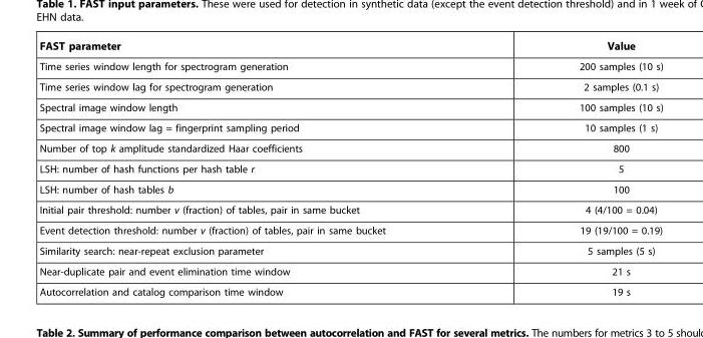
<table><thead><tr><td>FAST parameter</td><td>Value</td></tr></thead><tbody><tr><td>Time series window length for spectrogram generation</td><td>200 samples (10 s)</td></tr><tr><td>Time series window lag for spectrogram generation</td><td>2 samples (0.1 s)</td></tr><tr><td>Spectral image window length</td><td>100 samples (10 s)</td></tr><tr><td>Spectral image window lag = fingerprint sampling period</td><td>10 samples (1 s)</td></tr><tr><td>Number of top k amplitude standardized Haar coefficients</td><td>800</td></tr><tr><td>LSH: number of hash functions per hash table r</td><td>5</td></tr><tr><td>LSH: number of hash tables b</td><td>100</td></tr><tr><td>Initial pair threshold: number v (fraction) of tables, pair in same bucket</td><td>4 (4/100 = 0.04)</td></tr><tr><td>Event detection threshold: number v (fraction) of tables, pair in same bucket</td><td>19 (19/100 = 0.19)</td></tr><tr><td>Similarity search: near-repeat exclusion parameter</td><td>5 samples (5 s)</td></tr><tr><td>Near-duplicate pair and event elimination time window</td><td>21 s</td></tr><tr><td>Autocorrelation and catalog comparison time window</td><td>19 s</td></tr></tbody></table>